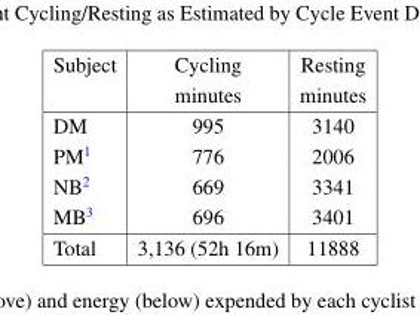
<table><thead><tr><td>Subject</td><td>Cycling minutes</td><td>Resting minutes</td></tr></thead><tbody><tr><td>DM</td><td>995</td><td>3140</td></tr><tr><td>PM<sup>1</sup></td><td>776</td><td>2006</td></tr><tr><td>NB<sup>2</sup></td><td>669</td><td>3341</td></tr><tr><td>MB<sup>3</sup></td><td>696</td><td>3401</td></tr><tr><td>Total</td><td>3,136 (52h 16m)</td><td>11888</td></tr></tbody></table>